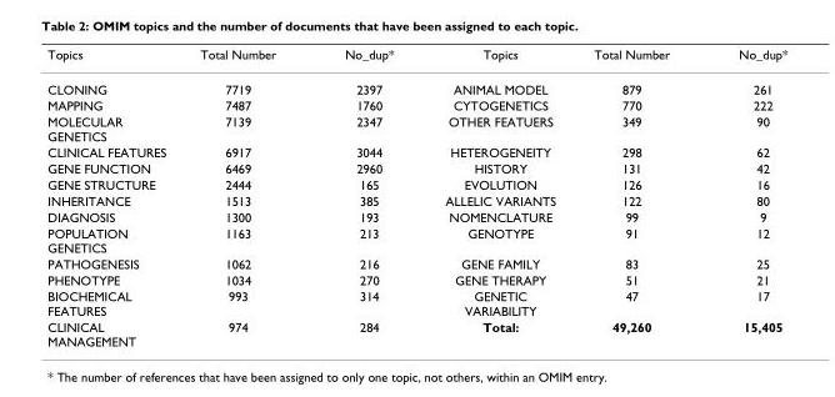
<table><thead><tr><td>Topics</td><td>Total Number</td><td>No_dup*</td><td>Topics</td><td>Total Number</td><td>No_dup*</td></tr></thead><tbody><tr><td>CLONING</td><td>7719</td><td>2397</td><td>ANIMAL MODEL</td><td>879</td><td>261</td></tr><tr><td>MAPPING</td><td>7487</td><td>1760</td><td>CYTOGENETICS</td><td>770</td><td>222</td></tr><tr><td>MOLECULAR GENETICS</td><td>7139</td><td>2347</td><td>OTHER FEATUERS</td><td>349</td><td>90</td></tr><tr><td>CLINICAL FEATURES</td><td>6917</td><td>3044</td><td>HETEROGENEITY</td><td>298</td><td>62</td></tr><tr><td>GENE FUNCTION</td><td>6469</td><td>2960</td><td>HISTORY</td><td>131</td><td>42</td></tr><tr><td>GENE STRUCTURE</td><td>2444</td><td>165</td><td>EVOLUTION</td><td>126</td><td>16</td></tr><tr><td>INHERITANCE</td><td>1513</td><td>385</td><td>ALLELIC VARIANTS</td><td>122</td><td>80</td></tr><tr><td>DIAGNOSIS</td><td>1300</td><td>193</td><td>NOMENCLATURE</td><td>99</td><td>9</td></tr><tr><td>POPULATION GENETICS</td><td>1163</td><td>213</td><td>GENOTYPE</td><td>91</td><td>12</td></tr><tr><td>PATHOGENESIS</td><td>1062</td><td>216</td><td>GENE FAMILY</td><td>83</td><td>25</td></tr><tr><td>PHENOTYPE</td><td>1034</td><td>270</td><td>GENE THERAPY</td><td>51</td><td>21</td></tr><tr><td>BIOCHEMICAL FEATURES</td><td>993</td><td>314</td><td>GENETIC VARIABILITY</td><td>47</td><td>17</td></tr><tr><td>CLINICAL MANAGEMENT</td><td>974</td><td>284</td><td>Total:</td><td>49,260</td><td>15,405</td></tr></tbody></table>